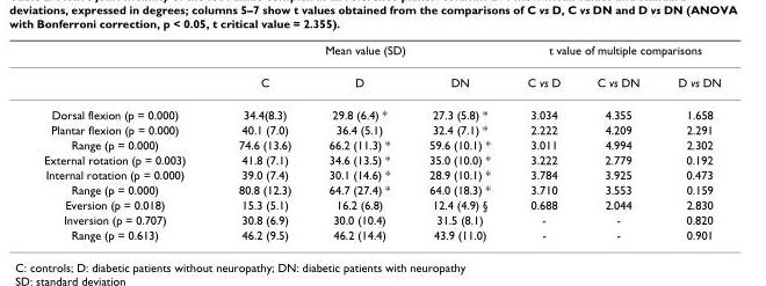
<table><thead><tr><td rowspan="2"></td><td colspan="3">Mean value (SD)</td><td colspan="3">t value of multiple comparisons</td></tr><tr><td>C</td><td>D</td><td>DN</td><td>C vs D</td><td>C vs DN</td><td>D vs DN</td></tr></thead><tbody><tr><td>Dorsal flexion (p = 0.000)</td><td>34.4(8.3)</td><td>29.8 (6.4) *</td><td>27.3 (5.8) *</td><td>3.034</td><td>4.355</td><td>1.658</td></tr><tr><td>Plantar flexion (p = 0.000)</td><td>40.1 (7.0)</td><td>36.4 (5.1)</td><td>32.4 (7.1) *</td><td>2.222</td><td>4.209</td><td>2.291</td></tr><tr><td>Range (p = 0.000)</td><td>74.6 (13.6)</td><td>66.2 (11.3) *</td><td>59.6 (10.1) *</td><td>3.011</td><td>4.994</td><td>2.302</td></tr><tr><td>External rotation (p = 0.003)</td><td>41.8 (7.1)</td><td>34.6 (13.5) *</td><td>35.0 (10.0) *</td><td>3.222</td><td>2.779</td><td>0.192</td></tr><tr><td>Internal rotation (p = 0.000)</td><td>39.0 (7.4)</td><td>30.1 (14.6) *</td><td>28.9 (10.1) *</td><td>3.784</td><td>3.925</td><td>0.473</td></tr><tr><td>Range (p = 0.000)</td><td>80.8 (12.3)</td><td>64.7 (27.4) *</td><td>64.0 (18.3) *</td><td>3.710</td><td>3.553</td><td>0.159</td></tr><tr><td>Eversion (p = 0.018)</td><td>15.3 (5.1)</td><td>16.2 (6.8)</td><td>12.4 (4.9) §</td><td>0.688</td><td>2.044</td><td>2.830</td></tr><tr><td>Inversion (p = 0.707)</td><td>30.8 (6.9)</td><td>30.0 (10.4)</td><td>31.5 (8.1)</td><td>-</td><td>-</td><td>0.820</td></tr><tr><td>Range (p = 0.613)</td><td>46.2 (9.5)</td><td>46.2 (14.4)</td><td>43.9 (11.0)</td><td>-</td><td>-</td><td>0.901</td></tr></tbody></table>